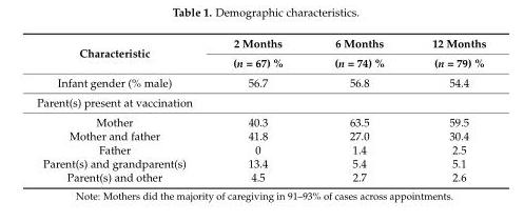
<table><thead><tr><td rowspan="2">Characteristic</td><td rowspan="2">2 Months (n = 67) %</td><td rowspan="2">6 Months (n = 74) %</td><td rowspan="2">12 Months (n = 79) %</td></tr><tr></tr></thead><tbody><tr><td>Infant gender (% male)</td><td>56.7</td><td>56.8</td><td>54.4</td></tr><tr><td colspan="4">Parent(s) present at vaccination</td></tr><tr><td>Mother</td><td>40.3</td><td>63.5</td><td>59.5</td></tr><tr><td>Mother and father</td><td>41.8</td><td>27.0</td><td>30.4</td></tr><tr><td>Father</td><td>0</td><td>1.4</td><td>2.5</td></tr><tr><td>Parent(s) and grandparent(s)</td><td>13.4</td><td>5.4</td><td>5.1</td></tr><tr><td>Parent(s) and other</td><td>4.5</td><td>2.7</td><td>2.6</td></tr></tbody></table>